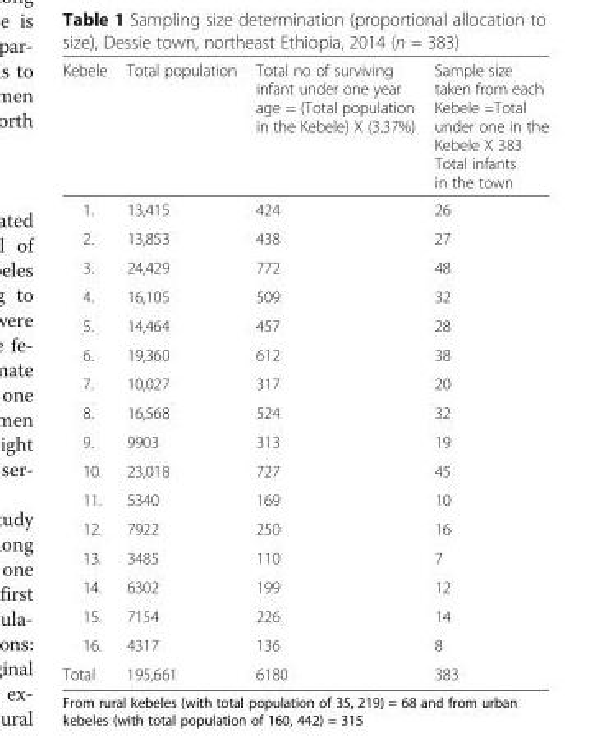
<table><thead><tr><td>Kebele</td><td>Total population</td><td>Total no of surviving infant under one year age = (Total population in the Kebele) X (3.37%)</td><td>Sample size taken from each Kebele =Total under one in the Kebele X 383 Total infants in the town</td></tr></thead><tbody><tr><td>1.</td><td>13,415</td><td>424</td><td>26</td></tr><tr><td>2.</td><td>13,853</td><td>438</td><td>27</td></tr><tr><td>3.</td><td>24,429</td><td>772</td><td>48</td></tr><tr><td>4.</td><td>16,105</td><td>509</td><td>32</td></tr><tr><td>5.</td><td>14,464</td><td>457</td><td>28</td></tr><tr><td>6.</td><td>19,360</td><td>612</td><td>38</td></tr><tr><td>7.</td><td>10,027</td><td>317</td><td>20</td></tr><tr><td>8.</td><td>16,568</td><td>524</td><td>32</td></tr><tr><td>9.</td><td>9903</td><td>313</td><td>19</td></tr><tr><td>10.</td><td>23,018</td><td>727</td><td>45</td></tr><tr><td>11.</td><td>5340</td><td>169</td><td>10</td></tr><tr><td>12.</td><td>7922</td><td>250</td><td>16</td></tr><tr><td>13.</td><td>3485</td><td>110</td><td>7</td></tr><tr><td>14.</td><td>6302</td><td>199</td><td>12</td></tr><tr><td>15.</td><td>7154</td><td>226</td><td>14</td></tr><tr><td>16.</td><td>4317</td><td>136</td><td>8</td></tr><tr><td>Total</td><td>195,661</td><td>6180</td><td>383</td></tr></tbody></table>